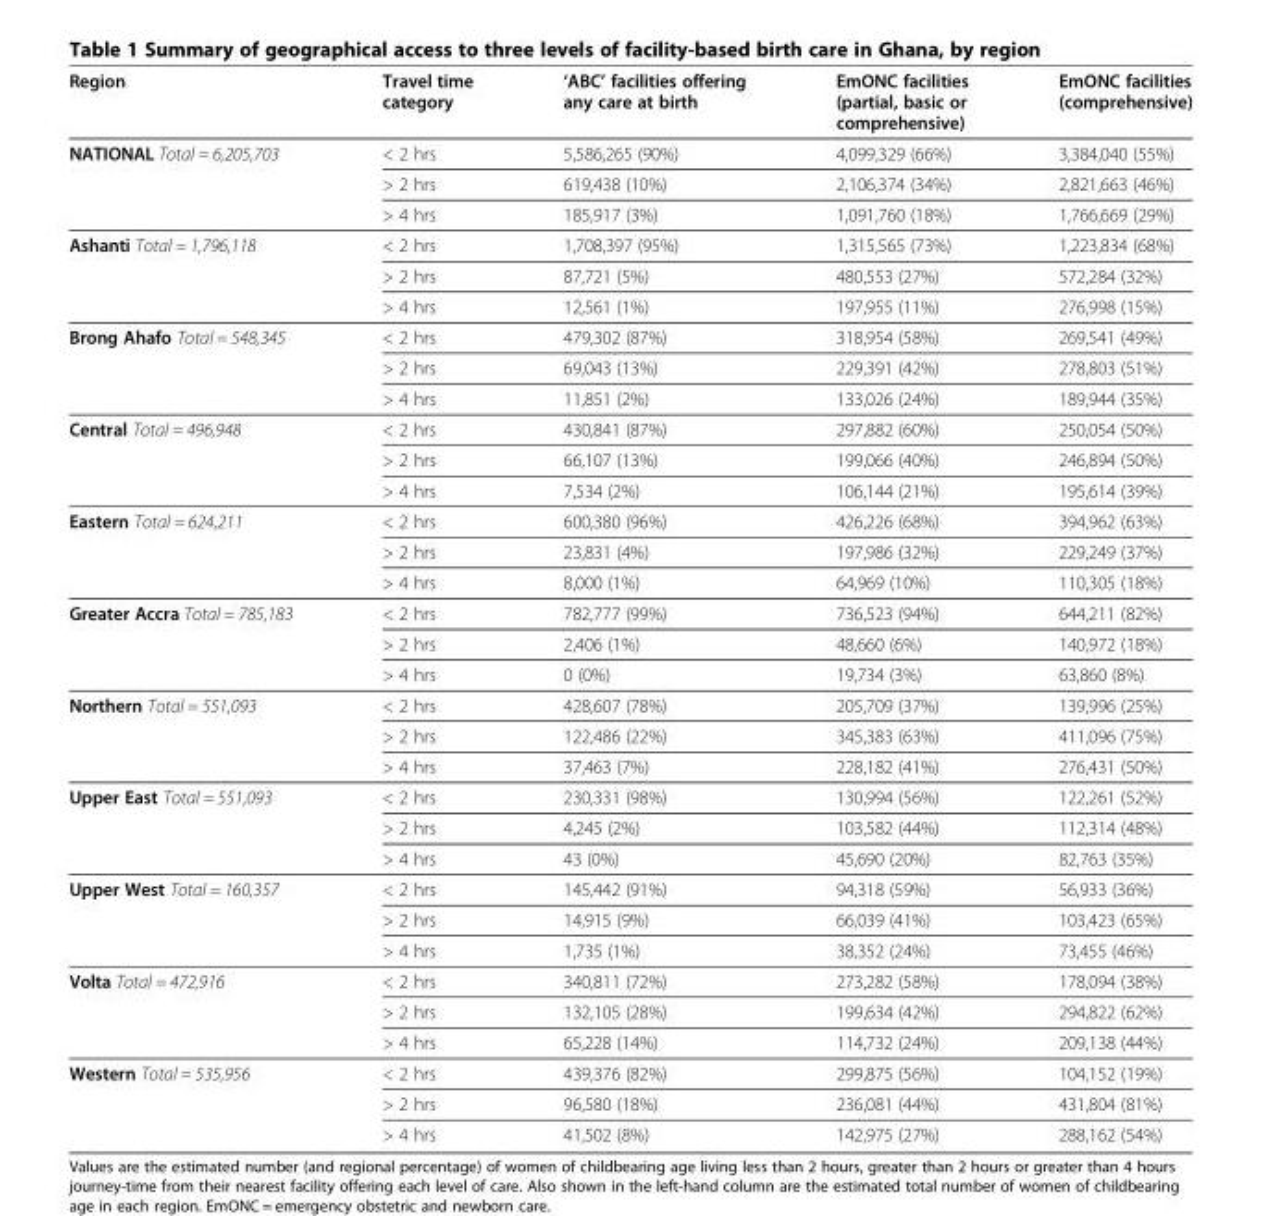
<table><thead><tr><td>Region</td><td>Travel time category</td><td>‘ABC’ facilities offering any care at birth</td><td>EmONC facilities (partial, basic or comprehensive)</td><td>EmONC facilities (comprehensive)</td></tr></thead><tbody><tr><td rowspan="3">NATIONAL Total = 6,205,703</td><td>&lt; 2 hrs</td><td>5,586,265 (90%)</td><td>4,099,329 (66%)</td><td>3,384,040 (55%)</td></tr><tr><td>&gt; 2 hrs</td><td>619,438 (10%)</td><td>2,106,374 (34%)</td><td>2,821,663 (46%)</td></tr><tr><td>&gt; 4 hrs</td><td>185,917 (3%)</td><td>1,091,760 (18%)</td><td>1,766,669 (29%)</td></tr><tr><td rowspan="3">Ashanti Total = 1,796,118</td><td>&lt; 2 hrs</td><td>1,708,397 (95%)</td><td>1,315,565 (73%)</td><td>1,223,834 (68%)</td></tr><tr><td>&gt; 2 hrs</td><td>87,721 (5%)</td><td>480,553 (27%)</td><td>572,284 (32%)</td></tr><tr><td>&gt; 4 hrs</td><td>12,561 (1%)</td><td>197,955 (11%)</td><td>276,998 (15%)</td></tr><tr><td rowspan="3">Brong Ahafo Total = 548,345</td><td>&lt; 2 hrs</td><td>479,302 (87%)</td><td>318,954 (58%)</td><td>269,541 (49%)</td></tr><tr><td>&gt; 2 hrs</td><td>69,043 (13%)</td><td>229,391 (42%)</td><td>278,803 (51%)</td></tr><tr><td>&gt; 4 hrs</td><td>11,851 (2%)</td><td>133,026 (24%)</td><td>189,944 (35%)</td></tr><tr><td rowspan="3">Central Total = 496,948</td><td>&lt; 2 hrs</td><td>430,841 (87%)</td><td>297,882 (60%)</td><td>250,054 (50%)</td></tr><tr><td>&gt; 2 hrs</td><td>66,107 (13%)</td><td>199,066 (40%)</td><td>246,894 (50%)</td></tr><tr><td>&gt; 4 hrs</td><td>7,534 (2%)</td><td>106,144 (21%)</td><td>195,614 (39%)</td></tr><tr><td rowspan="3">Eastern Total = 624,211</td><td>&lt; 2 hrs</td><td>600,380 (96%)</td><td>426,226 (68%)</td><td>394,962 (63%)</td></tr><tr><td>&gt; 2 hrs</td><td>23,831 (4%)</td><td>197,986 (32%)</td><td>229,249 (37%)</td></tr><tr><td>&gt; 4 hrs</td><td>8,000 (1%)</td><td>64,969 (10%)</td><td>110,305 (18%)</td></tr><tr><td rowspan="3">Greater Accra Total = 785,183</td><td>&lt; 2 hrs</td><td>782,777 (99%)</td><td>736,523 (94%)</td><td>644,211 (82%)</td></tr><tr><td>&gt; 2 hrs</td><td>2,406 (1%)</td><td>48,660 (6%)</td><td>140,972 (18%)</td></tr><tr><td>&gt; 4 hrs</td><td>0 (0%)</td><td>19,734 (3%)</td><td>63,860 (8%)</td></tr><tr><td rowspan="3">Northern Total = 551,093</td><td>&lt; 2 hrs</td><td>428,607 (78%)</td><td>205,709 (37%)</td><td>139,996 (25%)</td></tr><tr><td>&gt; 2 hrs</td><td>122,486 (22%)</td><td>345,383 (63%)</td><td>411,096 (75%)</td></tr><tr><td>&gt; 4 hrs</td><td>37,463 (7%)</td><td>228,182 (41%)</td><td>276,431 (50%)</td></tr><tr><td rowspan="3">Upper East Total = 551,093</td><td>&lt; 2 hrs</td><td>230,331 (98%)</td><td>130,994 (56%)</td><td>122,261 (52%)</td></tr><tr><td>&gt; 2 hrs</td><td>4,245 (2%)</td><td>103,582 (44%)</td><td>112,314 (48%)</td></tr><tr><td>&gt; 4 hrs</td><td>43 (0%)</td><td>45,690 (20%)</td><td>82,763 (35%)</td></tr><tr><td rowspan="3">Upper West Total = 160,357</td><td>&lt; 2 hrs</td><td>145,442 (91%)</td><td>94,318 (59%)</td><td>56,933 (36%)</td></tr><tr><td>&gt; 2 hrs</td><td>14,915 (9%)</td><td>66,039 (41%)</td><td>103,423 (65%)</td></tr><tr><td>&gt; 4 hrs</td><td>1,735 (1%)</td><td>38,352 (24%)</td><td>73,455 (46%)</td></tr><tr><td rowspan="3">Volta Total = 472,916</td><td>&lt; 2 hrs</td><td>340,811 (72%)</td><td>273,282 (58%)</td><td>178,094 (38%)</td></tr><tr><td>&gt; 2 hrs</td><td>132,105 (28%)</td><td>199,634 (42%)</td><td>294,822 (62%)</td></tr><tr><td>&gt; 4 hrs</td><td>65,228 (14%)</td><td>114,732 (24%)</td><td>209,138 (44%)</td></tr><tr><td rowspan="3">Western Total = 535,956</td><td>&lt; 2 hrs</td><td>439,376 (82%)</td><td>299,875 (56%)</td><td>104,152 (19%)</td></tr><tr><td>&gt; 2 hrs</td><td>96,580 (18%)</td><td>236,081 (44%)</td><td>431,804 (81%)</td></tr><tr><td>&gt; 4 hrs</td><td>41,502 (8%)</td><td>142,975 (27%)</td><td>288,162 (54%)</td></tr></tbody></table>